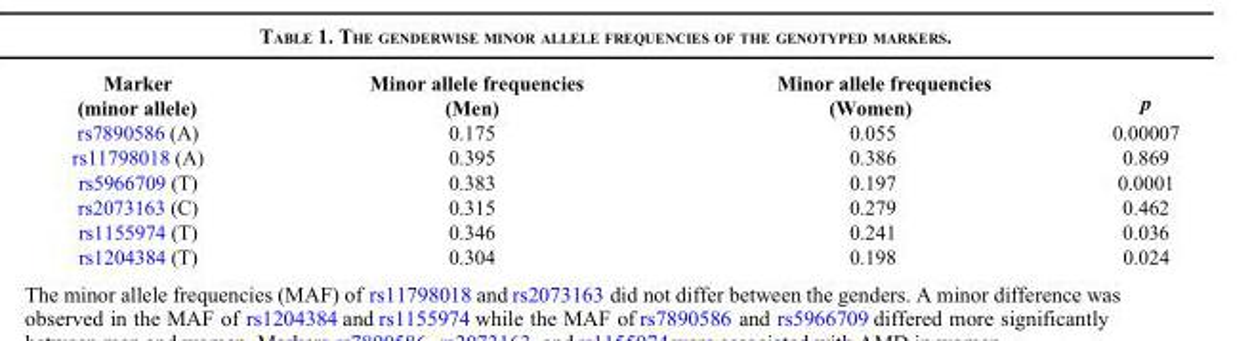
<table><thead><tr><td>Marker (minor allele)</td><td>Minor allele frequencies (Men)</td><td>Minor allele frequencies (Women)</td><td>p</td></tr></thead><tbody><tr><td>rs7890586 (A)</td><td>0.175</td><td>0.055</td><td>0.00007</td></tr><tr><td>rs11798018 (A)</td><td>0.395</td><td>0.386</td><td>0.869</td></tr><tr><td>rs5966709 (T)</td><td>0.383</td><td>0.197</td><td>0.0001</td></tr><tr><td>rs2073163 (C)</td><td>0.315</td><td>0.279</td><td>0.462</td></tr><tr><td>rs1155974 (T)</td><td>0.346</td><td>0.241</td><td>0.036</td></tr><tr><td>rs1204384 (T)</td><td>0.304</td><td>0.198</td><td>0.024</td></tr></tbody></table>